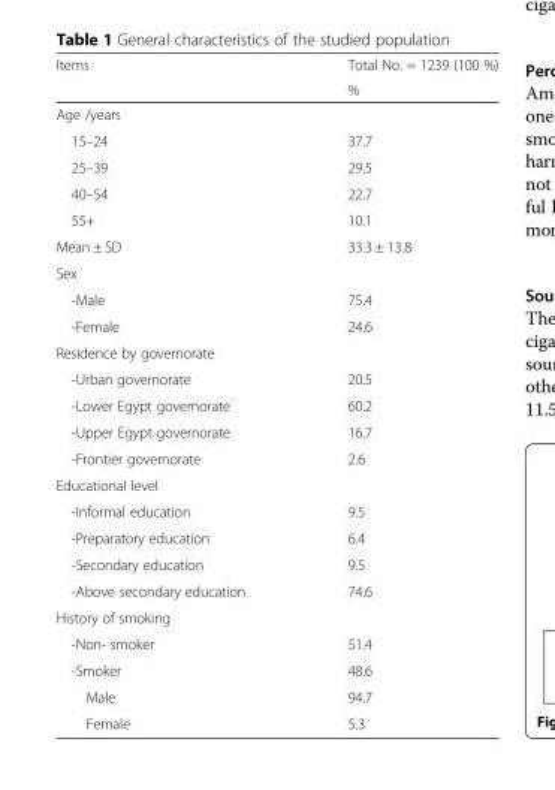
<table><thead><tr><td rowspan="2">Items</td><td rowspan="2">Total No. = 1239 (100 %) %</td></tr><tr></tr></thead><tbody><tr><td colspan="2">Age /years</td></tr><tr><td>15–24</td><td>37.7</td></tr><tr><td>25–39</td><td>29.5</td></tr><tr><td>40–54</td><td>22.7</td></tr><tr><td>55+</td><td>10.1</td></tr><tr><td>Mean ± SD</td><td>33.3 ± 13.8</td></tr><tr><td colspan="2">Sex</td></tr><tr><td>-Male</td><td>75.4</td></tr><tr><td>-Female</td><td>24.6</td></tr><tr><td colspan="2">Residence by governorate</td></tr><tr><td>-Urban governorate</td><td>20.5</td></tr><tr><td>-Lower Egypt governorate</td><td>60.2</td></tr><tr><td>-Upper Egypt governorate</td><td>16.7</td></tr><tr><td>-Frontier governorate</td><td>2.6</td></tr><tr><td colspan="2">Educational level</td></tr><tr><td>-Informal education</td><td>9.5</td></tr><tr><td>-Preparatory education</td><td>6.4</td></tr><tr><td>-Secondary education</td><td>9.5</td></tr><tr><td>-Above secondary education</td><td>74.6</td></tr><tr><td colspan="2">History of smoking</td></tr><tr><td>-Non- smoker</td><td>51.4</td></tr><tr><td>-Smoker</td><td>48.6</td></tr><tr><td>Male</td><td>94.7</td></tr><tr><td>Female</td><td>5.3</td></tr></tbody></table>